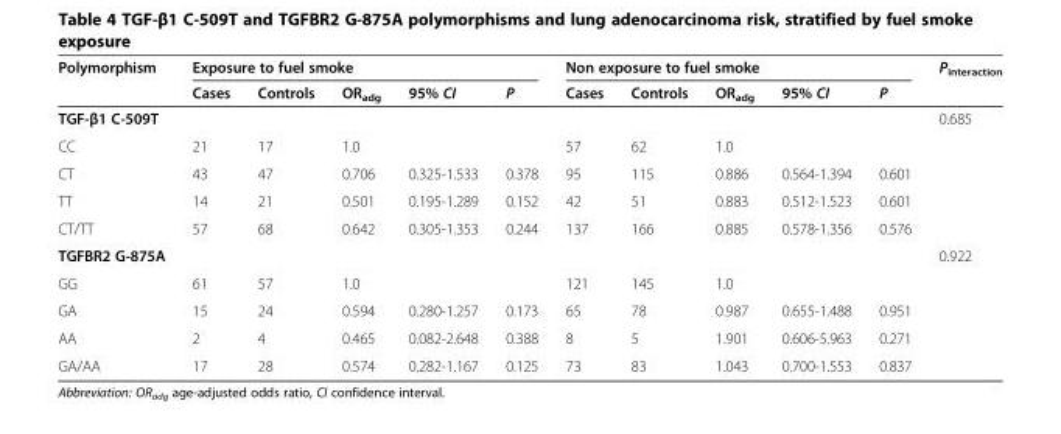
<table><thead><tr><td rowspan="2">Polymorphism</td><td colspan="5">Exposure to fuel smoke</td><td colspan="5">Non exposure to fuel smoke</td><td rowspan="2">P<sub>interaction</sub></td></tr><tr><td>Cases</td><td>Controls</td><td>OR<sub>adg</sub></td><td>95% CI</td><td>P</td><td>Cases</td><td>Controls</td><td>OR<sub>adg</sub></td><td>95% CI</td><td>P</td></tr></thead><tbody><tr><td>TGF-β1 C-509T</td><td></td><td></td><td></td><td></td><td></td><td></td><td></td><td></td><td></td><td></td><td>0.685</td></tr><tr><td>CC</td><td>21</td><td>17</td><td>1.0</td><td></td><td></td><td>57</td><td>62</td><td>1.0</td><td></td><td></td><td></td></tr><tr><td>CT</td><td>43</td><td>47</td><td>0.706</td><td>0.325-1.533</td><td>0.378</td><td>95</td><td>115</td><td>0.886</td><td>0.564-1.394</td><td>0.601</td><td></td></tr><tr><td>TT</td><td>14</td><td>21</td><td>0.501</td><td>0.195-1.289</td><td>0.152</td><td>42</td><td>51</td><td>0.883</td><td>0.512-1.523</td><td>0.601</td><td></td></tr><tr><td>CT/TT</td><td>57</td><td>68</td><td>0.642</td><td>0.305-1.353</td><td>0.244</td><td>137</td><td>166</td><td>0.885</td><td>0.578-1.356</td><td>0.576</td><td></td></tr><tr><td>TGFBR2 G-875A</td><td></td><td></td><td></td><td></td><td></td><td></td><td></td><td></td><td></td><td></td><td>0.922</td></tr><tr><td>GG</td><td>61</td><td>57</td><td>1.0</td><td></td><td></td><td>121</td><td>145</td><td>1.0</td><td></td><td></td><td></td></tr><tr><td>GA</td><td>15</td><td>24</td><td>0.594</td><td>0.280-1.257</td><td>0.173</td><td>65</td><td>78</td><td>0.987</td><td>0.655-1.488</td><td>0.951</td><td></td></tr><tr><td>AA</td><td>2</td><td>4</td><td>0.465</td><td>0.082-2.648</td><td>0.388</td><td>8</td><td>5</td><td>1.901</td><td>0.606-5.963</td><td>0.271</td><td></td></tr><tr><td>GA/AA</td><td>17</td><td>28</td><td>0.574</td><td>0.282-1.167</td><td>0.125</td><td>73</td><td>83</td><td>1.043</td><td>0.700-1.553</td><td>0.837</td><td></td></tr></tbody></table>